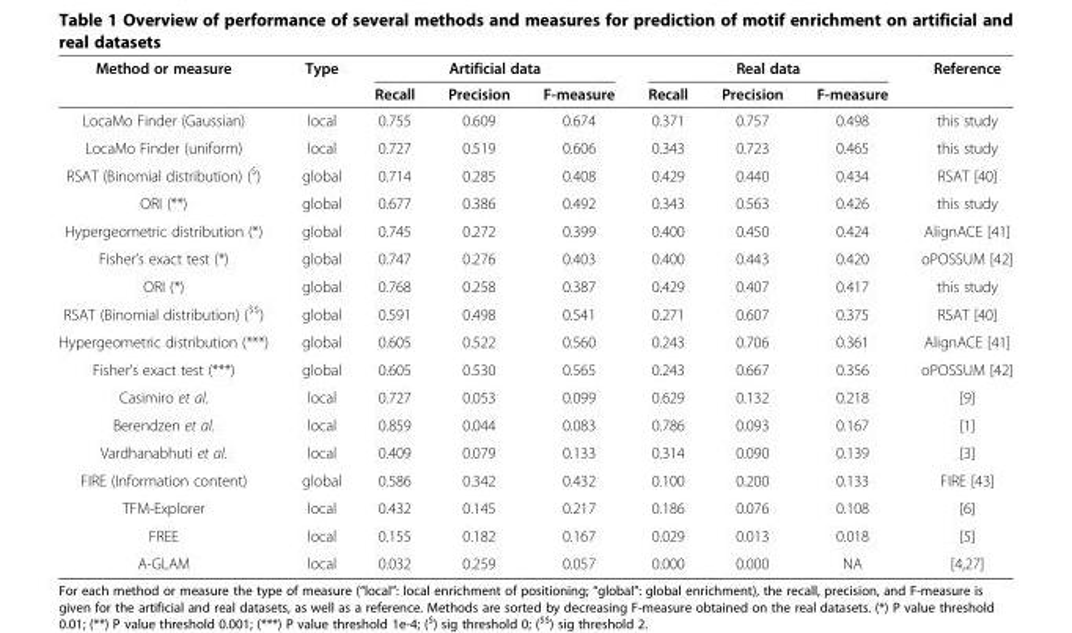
<table><thead><tr><td rowspan="2">Method or measure</td><td rowspan="2">Type</td><td colspan="3">Artificial data</td><td colspan="3">Real data</td><td rowspan="2">Reference</td></tr><tr><td>Recall</td><td>Precision</td><td>F-measure</td><td>Recall</td><td>Precision</td><td>F-measure</td></tr></thead><tbody><tr><td>LocaMo Finder (Gaussian)</td><td>local</td><td>0.755</td><td>0.609</td><td>0.674</td><td>0.371</td><td>0.757</td><td>0.498</td><td>this study</td></tr><tr><td>LocaMo Finder (uniform)</td><td>local</td><td>0.727</td><td>0.519</td><td>0.606</td><td>0.343</td><td>0.723</td><td>0.465</td><td>this study</td></tr><tr><td>RSAT (Binomial distribution) (<sup>$</sup>)</td><td>global</td><td>0.714</td><td>0.285</td><td>0.408</td><td>0.429</td><td>0.440</td><td>0.434</td><td>RSAT [40]</td></tr><tr><td>ORI (**)</td><td>global</td><td>0.677</td><td>0.386</td><td>0.492</td><td>0.343</td><td>0.563</td><td>0.426</td><td>this study</td></tr><tr><td>Hypergeometric distribution (*)</td><td>global</td><td>0.745</td><td>0.272</td><td>0.399</td><td>0.400</td><td>0.450</td><td>0.424</td><td>AlignACE [41]</td></tr><tr><td>Fisher’s exact test (*)</td><td>global</td><td>0.747</td><td>0.276</td><td>0.403</td><td>0.400</td><td>0.443</td><td>0.420</td><td>oPOSSUM [42]</td></tr><tr><td>ORI (*)</td><td>global</td><td>0.768</td><td>0.258</td><td>0.387</td><td>0.429</td><td>0.407</td><td>0.417</td><td>this study</td></tr><tr><td>RSAT (Binomial distribution) (<sup>$$</sup>)</td><td>global</td><td>0.591</td><td>0.498</td><td>0.541</td><td>0.271</td><td>0.607</td><td>0.375</td><td>RSAT [40]</td></tr><tr><td>Hypergeometric distribution (***)</td><td>global</td><td>0.605</td><td>0.522</td><td>0.560</td><td>0.243</td><td>0.706</td><td>0.361</td><td>AlignACE [41]</td></tr><tr><td>Fisher’s exact test (***)</td><td>global</td><td>0.605</td><td>0.530</td><td>0.565</td><td>0.243</td><td>0.667</td><td>0.356</td><td>oPOSSUM [42]</td></tr><tr><td>Casimiro et al.</td><td>local</td><td>0.727</td><td>0.053</td><td>0.099</td><td>0.629</td><td>0.132</td><td>0.218</td><td>[9]</td></tr><tr><td>Berendzen et al.</td><td>local</td><td>0.859</td><td>0.044</td><td>0.083</td><td>0.786</td><td>0.093</td><td>0.167</td><td>[1]</td></tr><tr><td>Vardhanabhuti et al.</td><td>local</td><td>0.409</td><td>0.079</td><td>0.133</td><td>0.314</td><td>0.090</td><td>0.139</td><td>[3]</td></tr><tr><td>FIRE (Information content)</td><td>global</td><td>0.586</td><td>0.342</td><td>0.432</td><td>0.100</td><td>0.200</td><td>0.133</td><td>FIRE [43]</td></tr><tr><td>TFM-Explorer</td><td>local</td><td>0.432</td><td>0.145</td><td>0.217</td><td>0.186</td><td>0.076</td><td>0.108</td><td>[6]</td></tr><tr><td>FREE</td><td>local</td><td>0.155</td><td>0.182</td><td>0.167</td><td>0.029</td><td>0.013</td><td>0.018</td><td>[5]</td></tr><tr><td>A-GLAM</td><td>local</td><td>0.032</td><td>0.259</td><td>0.057</td><td>0.000</td><td>0.000</td><td>NA</td><td>[4,27]</td></tr></tbody></table>